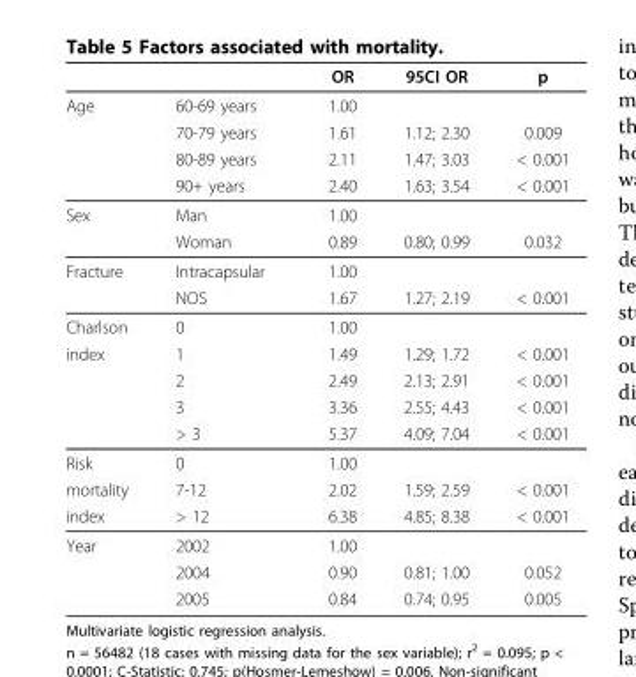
<table><thead><tr><td></td><td></td><td>OR</td><td>95CI OR</td><td>p</td></tr></thead><tbody><tr><td rowspan="4">Age</td><td>60-69 years</td><td>1.00</td><td></td><td></td></tr><tr><td>70-79 years</td><td>1.61</td><td>1.12; 2.30</td><td>0.009</td></tr><tr><td>80-89 years</td><td>2.11</td><td>1.47; 3.03</td><td>&lt; 0.001</td></tr><tr><td>90+ years</td><td>2.40</td><td>1.63; 3.54</td><td>&lt; 0.001</td></tr><tr><td rowspan="2">Sex</td><td>Man</td><td>1.00</td><td></td><td></td></tr><tr><td>Woman</td><td>0.89</td><td>0.80; 0.99</td><td>0.032</td></tr><tr><td rowspan="2">Fracture</td><td>Intracapsular</td><td>1.00</td><td></td><td></td></tr><tr><td>NOS</td><td>1.67</td><td>1.27; 2.19</td><td>&lt; 0.001</td></tr><tr><td>Charlson</td><td>0</td><td>1.00</td><td></td><td></td></tr><tr><td rowspan="4">index</td><td>1</td><td>1.49</td><td>1.29; 1.72</td><td>&lt; 0.001</td></tr><tr><td>2</td><td>2.49</td><td>2.13; 2.91</td><td>&lt; 0.001</td></tr><tr><td>3</td><td>3.36</td><td>2.55; 4.43</td><td>&lt; 0.001</td></tr><tr><td>&gt; 3</td><td>5.37</td><td>4.09; 7.04</td><td>&lt; 0.001</td></tr><tr><td>Risk</td><td>0</td><td>1.00</td><td></td><td></td></tr><tr><td>mortality</td><td>7-12</td><td>2.02</td><td>1.59; 2.59</td><td>&lt; 0.001</td></tr><tr><td>index</td><td>&gt; 12</td><td>6.38</td><td>4.85; 8.38</td><td>&lt; 0.001</td></tr><tr><td rowspan="3">Year</td><td>2002</td><td>1.00</td><td></td><td></td></tr><tr><td>2004</td><td>0.90</td><td>0.81; 1.00</td><td>0.052</td></tr><tr><td>2005</td><td>0.84</td><td>0.74; 0.95</td><td>0.005</td></tr></tbody></table>